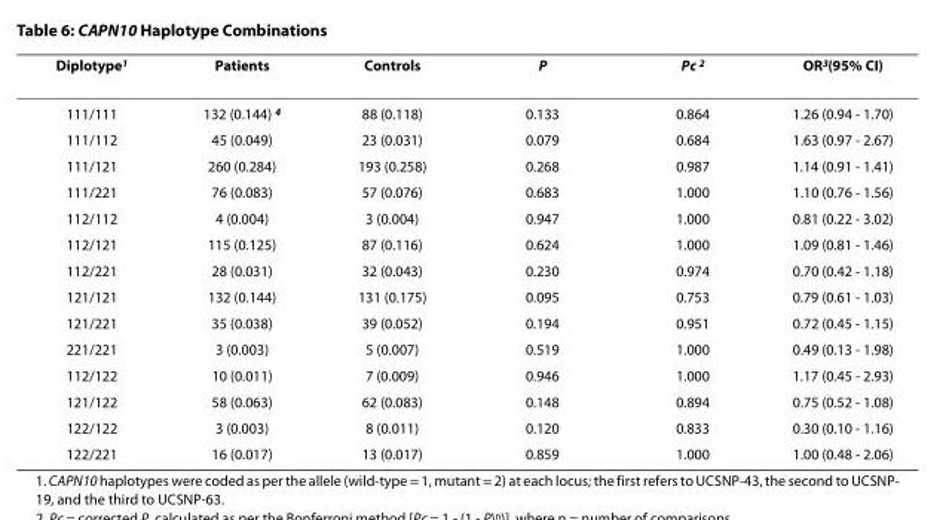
<table><thead><tr><td>Diplotype<sup>1</sup></td><td>Patients</td><td>Controls</td><td>P</td><td>Pc <sup>2</sup></td><td>OR<sup>3</sup>(95% CI)</td></tr></thead><tbody><tr><td>111/111</td><td>132 (0.144) <sup>4</sup></td><td>88 (0.118)</td><td>0.133</td><td>0.864</td><td>1.26 (0.94 - 1.70)</td></tr><tr><td>111/112</td><td>45 (0.049)</td><td>23 (0.031)</td><td>0.079</td><td>0.684</td><td>1.63 (0.97 - 2.67)</td></tr><tr><td>111/121</td><td>260 (0.284)</td><td>193 (0.258)</td><td>0.268</td><td>0.987</td><td>1.14 (0.91 - 1.41)</td></tr><tr><td>111/221</td><td>76 (0.083)</td><td>57 (0.076)</td><td>0.683</td><td>1.000</td><td>1.10 (0.76 - 1.56)</td></tr><tr><td>112/112</td><td>4 (0.004)</td><td>3 (0.004)</td><td>0.947</td><td>1.000</td><td>0.81 (0.22 - 3.02)</td></tr><tr><td>112/121</td><td>115 (0.125)</td><td>87 (0.116)</td><td>0.624</td><td>1.000</td><td>1.09 (0.81 - 1.46)</td></tr><tr><td>112/221</td><td>28 (0.031)</td><td>32 (0.043)</td><td>0.230</td><td>0.974</td><td>0.70 (0.42 - 1.18)</td></tr><tr><td>121/121</td><td>132 (0.144)</td><td>131 (0.175)</td><td>0.095</td><td>0.753</td><td>0.79 (0.61 - 1.03)</td></tr><tr><td>121/221</td><td>35 (0.038)</td><td>39 (0.052)</td><td>0.194</td><td>0.951</td><td>0.72 (0.45 - 1.15)</td></tr><tr><td>221/221</td><td>3 (0.003)</td><td>5 (0.007)</td><td>0.519</td><td>1.000</td><td>0.49 (0.13 - 1.98)</td></tr><tr><td>112/122</td><td>10 (0.011)</td><td>7 (0.009)</td><td>0.946</td><td>1.000</td><td>1.17 (0.45 - 2.93)</td></tr><tr><td>121/122</td><td>58 (0.063)</td><td>62 (0.083)</td><td>0.148</td><td>0.894</td><td>0.75 (0.52 - 1.08)</td></tr><tr><td>122/122</td><td>3 (0.003)</td><td>8 (0.011)</td><td>0.120</td><td>0.833</td><td>0.30 (0.10 - 1.16)</td></tr><tr><td>122/221</td><td>16 (0.017)</td><td>13 (0.017)</td><td>0.859</td><td>1.000</td><td>1.00 (0.48 - 2.06)</td></tr></tbody></table>